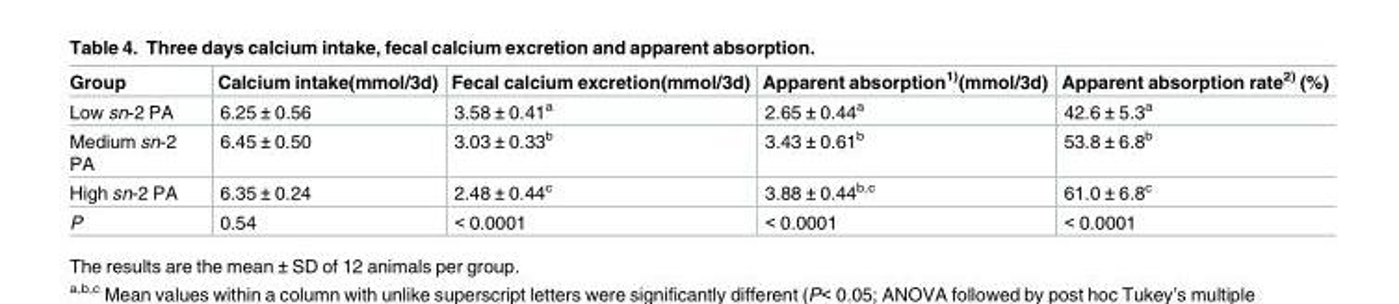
<table><thead><tr><td>Group</td><td>Calcium intake(mmol/3d)</td><td>Fecal calcium excretion(mmol/3d)</td><td>Apparent absorption<sup>1)</sup>(mmol/3d)</td><td>Apparent absorption rate<sup>2)</sup> (%)</td></tr></thead><tbody><tr><td>Low sn-2 PA</td><td>6.25 ± 0.56</td><td>3.58 ± 0.41<sup>a</sup></td><td>2.65 ± 0.44<sup>a</sup></td><td>42.6 ± 5.3<sup>a</sup></td></tr><tr><td>Medium sn-2 PA</td><td>6.45 ± 0.50</td><td>3.03 ± 0.33<sup>b</sup></td><td>3.43 ± 0.61<sup>b</sup></td><td>53.8 ± 6.8<sup>b</sup></td></tr><tr><td>High sn-2 PA</td><td>6.35 ± 0.24</td><td>2.48 ± 0.44<sup>c</sup></td><td>3.88 ± 0.44<sup>b,c</sup></td><td>61.0 ± 6.8<sup>c</sup></td></tr><tr><td>P</td><td>0.54</td><td>&lt; 0.0001</td><td>&lt; 0.0001</td><td>&lt; 0.0001</td></tr></tbody></table>